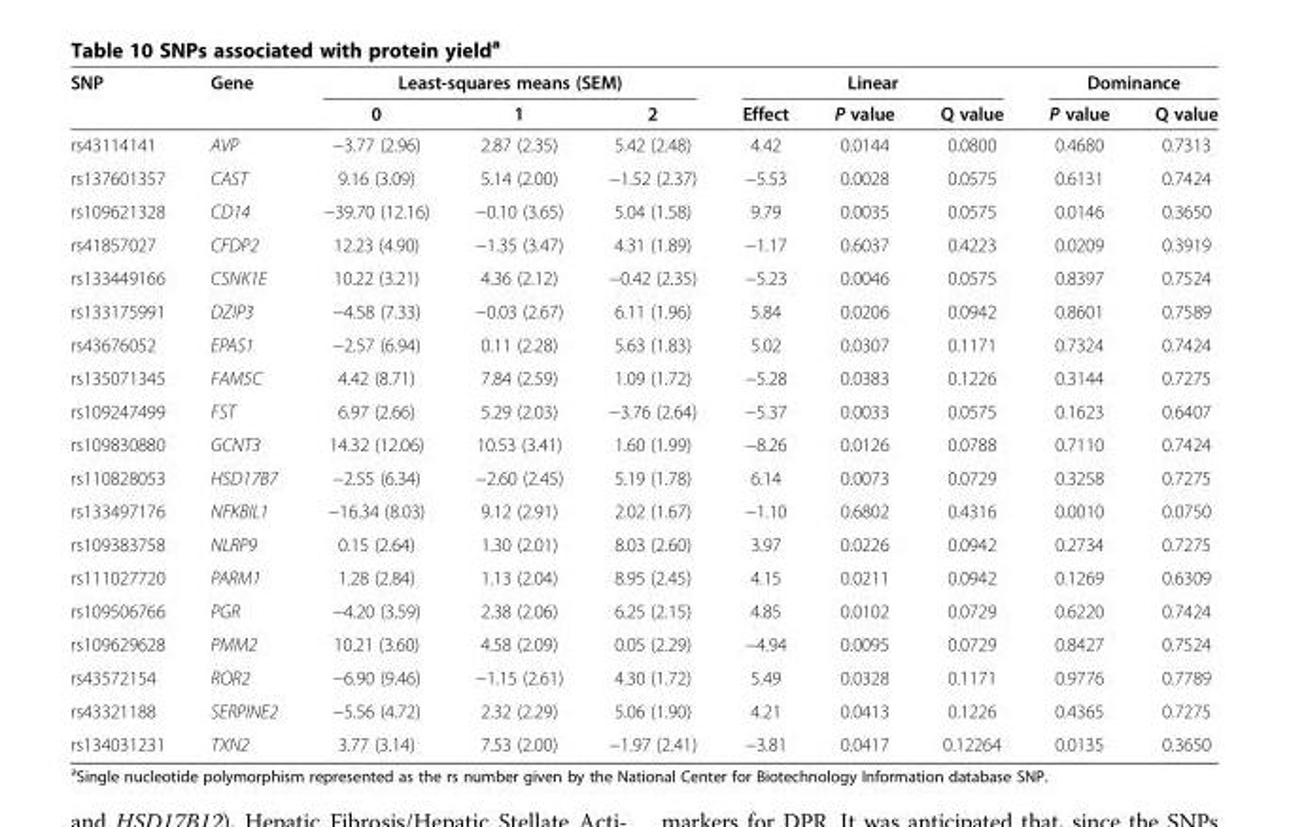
<table><thead><tr><td rowspan="2">SNP</td><td rowspan="2">Gene</td><td colspan="3">Least-squares means (SEM)</td><td colspan="3">Linear</td><td colspan="2">Dominance</td></tr><tr><td>0</td><td>1</td><td>2</td><td>Effect</td><td>P value</td><td>Q value</td><td>P value</td><td>Q value</td></tr></thead><tbody><tr><td>rs43114141</td><td>AVP</td><td>−3.77 (2.96)</td><td>2.87 (2.35)</td><td>5.42 (2.48)</td><td>4.42</td><td>0.0144</td><td>0.0800</td><td>0.4680</td><td>0.7313</td></tr><tr><td>rs137601357</td><td>CAST</td><td>9.16 (3.09)</td><td>5.14 (2.00)</td><td>−1.52 (2.37)</td><td>−5.53</td><td>0.0028</td><td>0.0575</td><td>0.6131</td><td>0.7424</td></tr><tr><td>rs109621328</td><td>CD14</td><td>−39.70 (12.16)</td><td>−0.10 (3.65)</td><td>5.04 (1.58)</td><td>9.79</td><td>0.0035</td><td>0.0575</td><td>0.0146</td><td>0.3650</td></tr><tr><td>rs41857027</td><td>CFDP2</td><td>12.23 (4.90)</td><td>−1.35 (3.47)</td><td>4.31 (1.89)</td><td>−1.17</td><td>0.6037</td><td>0.4223</td><td>0.0209</td><td>0.3919</td></tr><tr><td>rs133449166</td><td>CSNK1E</td><td>10.22 (3.21)</td><td>4.36 (2.12)</td><td>−0.42 (2.35)</td><td>−5.23</td><td>0.0046</td><td>0.0575</td><td>0.8397</td><td>0.7524</td></tr><tr><td>rs133175991</td><td>DZIP3</td><td>−4.58 (7.33)</td><td>−0.03 (2.67)</td><td>6.11 (1.96)</td><td>5.84</td><td>0.0206</td><td>0.0942</td><td>0.8601</td><td>0.7589</td></tr><tr><td>rs43676052</td><td>EPAS1</td><td>−2.57 (6.94)</td><td>0.11 (2.28)</td><td>5.63 (1.83)</td><td>5.02</td><td>0.0307</td><td>0.1171</td><td>0.7324</td><td>0.7424</td></tr><tr><td>rs135071345</td><td>FAM5C</td><td>4.42 (8.71)</td><td>7.84 (2.59)</td><td>1.09 (1.72)</td><td>−5.28</td><td>0.0383</td><td>0.1226</td><td>0.3144</td><td>0.7275</td></tr><tr><td>rs109247499</td><td>FST</td><td>6.97 (2.66)</td><td>5.29 (2.03)</td><td>−3.76 (2.64)</td><td>−5.37</td><td>0.0033</td><td>0.0575</td><td>0.1623</td><td>0.6407</td></tr><tr><td>rs109830880</td><td>GCNT3</td><td>14.32 (12.06)</td><td>10.53 (3.41)</td><td>1.60 (1.99)</td><td>−8.26</td><td>0.0126</td><td>0.0788</td><td>0.7110</td><td>0.7424</td></tr><tr><td>rs110828053</td><td>HSD17B7</td><td>−2.55 (6.34)</td><td>−2.60 (2.45)</td><td>5.19 (1.78)</td><td>6.14</td><td>0.0073</td><td>0.0729</td><td>0.3258</td><td>0.7275</td></tr><tr><td>rs133497176</td><td>NFKBIL1</td><td>−16.34 (8.03)</td><td>9.12 (2.91)</td><td>2.02 (1.67)</td><td>−1.10</td><td>0.6802</td><td>0.4316</td><td>0.0010</td><td>0.0750</td></tr><tr><td>rs109383758</td><td>NLRP9</td><td>0.15 (2.64)</td><td>1.30 (2.01)</td><td>8.03 (2.60)</td><td>3.97</td><td>0.0226</td><td>0.0942</td><td>0.2734</td><td>0.7275</td></tr><tr><td>rs111027720</td><td>PARM1</td><td>1.28 (2.84)</td><td>1.13 (2.04)</td><td>8.95 (2.45)</td><td>4.15</td><td>0.0211</td><td>0.0942</td><td>0.1269</td><td>0.6309</td></tr><tr><td>rs109506766</td><td>PGR</td><td>−4.20 (3.59)</td><td>2.38 (2.06)</td><td>6.25 (2.15)</td><td>4.85</td><td>0.0102</td><td>0.0729</td><td>0.6220</td><td>0.7424</td></tr><tr><td>rs109629628</td><td>PMM2</td><td>10.21 (3.60)</td><td>4.58 (2.09)</td><td>0.05 (2.29)</td><td>−4.94</td><td>0.0095</td><td>0.0729</td><td>0.8427</td><td>0.7524</td></tr><tr><td>rs43572154</td><td>ROR2</td><td>−6.90 (9.46)</td><td>−1.15 (2.61)</td><td>4.30 (1.72)</td><td>5.49</td><td>0.0328</td><td>0.1171</td><td>0.9776</td><td>0.7789</td></tr><tr><td>rs43321188</td><td>SERPINE2</td><td>−5.56 (4.72)</td><td>2.32 (2.29)</td><td>5.06 (1.90)</td><td>4.21</td><td>0.0413</td><td>0.1226</td><td>0.4365</td><td>0.7275</td></tr><tr><td>rs134031231</td><td>TXN2</td><td>3.77 (3.14)</td><td>7.53 (2.00)</td><td>−1.97 (2.41)</td><td>−3.81</td><td>0.0417</td><td>0.12264</td><td>0.0135</td><td>0.3650</td></tr></tbody></table>